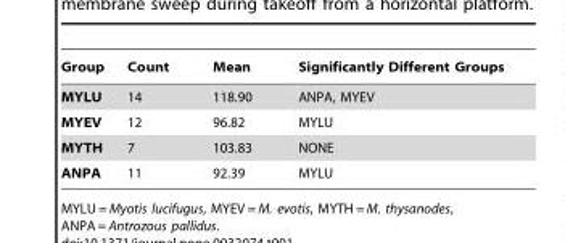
<table><thead><tr><td>Group</td><td>Count</td><td>Mean</td><td>Significantly Different Groups</td></tr></thead><tbody><tr><td>MYLU</td><td>14</td><td>118.90</td><td>ANPA, MYEV</td></tr><tr><td>MYEV</td><td>12</td><td>96.82</td><td>MYLU</td></tr><tr><td>MYTH</td><td>7</td><td>103.83</td><td>NONE</td></tr><tr><td>ANPA</td><td>11</td><td>92.39</td><td>MYLU</td></tr></tbody></table>